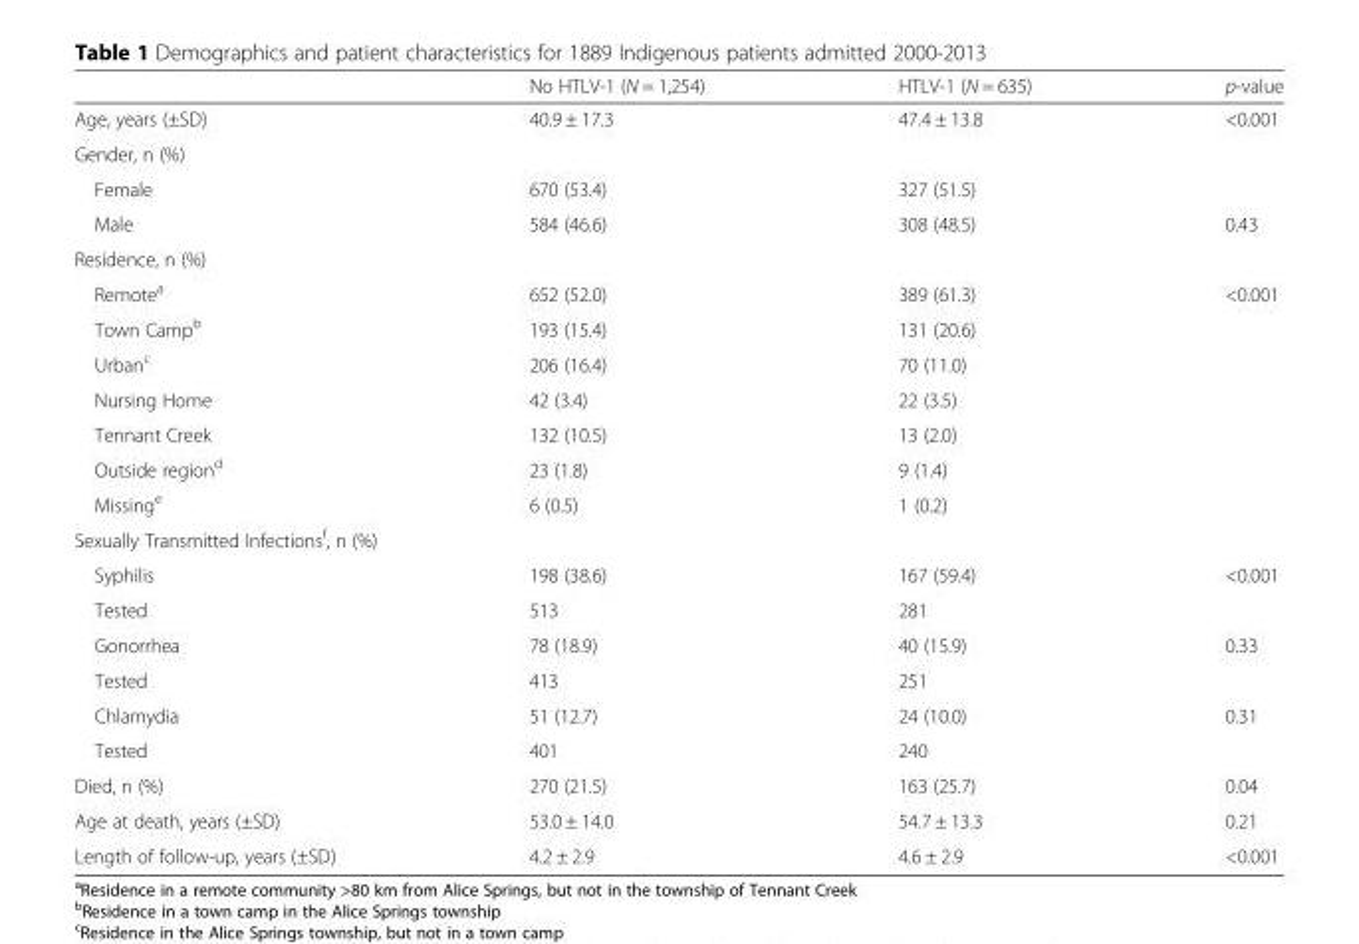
<table><thead><tr><td></td><td>No HTLV-1 (N = 1,254)</td><td>HTLV-1 (N = 635)</td><td>p-value</td></tr></thead><tbody><tr><td>Age, years (±SD)</td><td>40.9 ± 17.3</td><td>47.4 ± 13.8</td><td>&lt;0.001</td></tr><tr><td colspan="4">Gender, n (%)</td></tr><tr><td>Female</td><td>670 (53.4)</td><td>327 (51.5)</td><td></td></tr><tr><td>Male</td><td>584 (46.6)</td><td>308 (48.5)</td><td>0.43</td></tr><tr><td colspan="4">Residence, n (%)</td></tr><tr><td>Remote<sup>a</sup></td><td>652 (52.0)</td><td>389 (61.3)</td><td>&lt;0.001</td></tr><tr><td>Town Camp<sup>b</sup></td><td>193 (15.4)</td><td>131 (20.6)</td><td></td></tr><tr><td>Urban<sup>c</sup></td><td>206 (16.4)</td><td>70 (11.0)</td><td></td></tr><tr><td>Nursing Home</td><td>42 (3.4)</td><td>22 (3.5)</td><td></td></tr><tr><td>Tennant Creek</td><td>132 (10.5)</td><td>13 (2.0)</td><td></td></tr><tr><td>Outside region<sup>d</sup></td><td>23 (1.8)</td><td>9 (1.4)</td><td></td></tr><tr><td>Missing<sup>e</sup></td><td>6 (0.5)</td><td>1 (0.2)</td><td></td></tr><tr><td colspan="4">Sexually Transmitted Infections<sup>f</sup>, n (%)</td></tr><tr><td>Syphilis</td><td>198 (38.6)</td><td>167 (59.4)</td><td>&lt;0.001</td></tr><tr><td>Tested</td><td>513</td><td>281</td><td></td></tr><tr><td>Gonorrhea</td><td>78 (18.9)</td><td>40 (15.9)</td><td>0.33</td></tr><tr><td>Tested</td><td>413</td><td>251</td><td></td></tr><tr><td>Chlamydia</td><td>51 (12.7)</td><td>24 (10.0)</td><td>0.31</td></tr><tr><td>Tested</td><td>401</td><td>240</td><td></td></tr><tr><td>Died, n (%)</td><td>270 (21.5)</td><td>163 (25.7)</td><td>0.04</td></tr><tr><td>Age at death, years (±SD)</td><td>53.0 ± 14.0</td><td>54.7 ± 13.3</td><td>0.21</td></tr><tr><td>Length of follow-up, years (±SD)</td><td>4.2 ± 2.9</td><td>4.6 ± 2.9</td><td>&lt;0.001</td></tr></tbody></table>